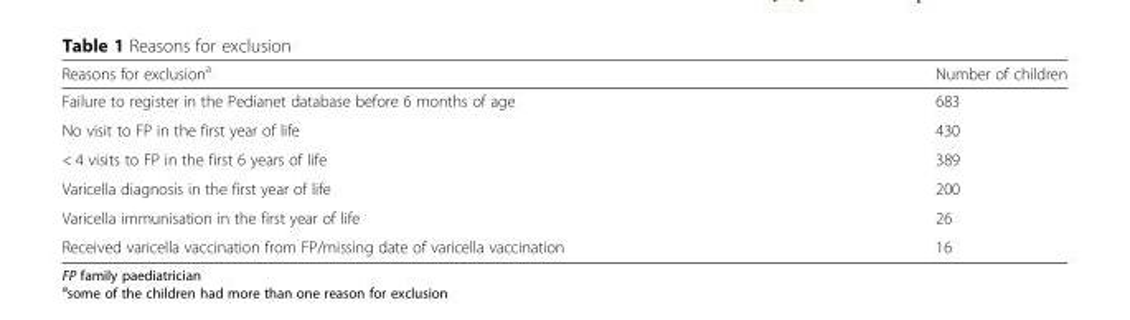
<table><thead><tr><td>Reasons for exclusion<sup>a</sup></td><td>Number of children</td></tr></thead><tbody><tr><td>Failure to register in the Pedianet database before 6 months of age</td><td>683</td></tr><tr><td>No visit to FP in the first year of life</td><td>430</td></tr><tr><td>&lt; 4 visits to FP in the first 6 years of life</td><td>389</td></tr><tr><td>Varicella diagnosis in the first year of life</td><td>200</td></tr><tr><td>Varicella immunisation in the first year of life</td><td>26</td></tr><tr><td>Received varicella vaccination from FP/missing date of varicella vaccination</td><td>16</td></tr></tbody></table>